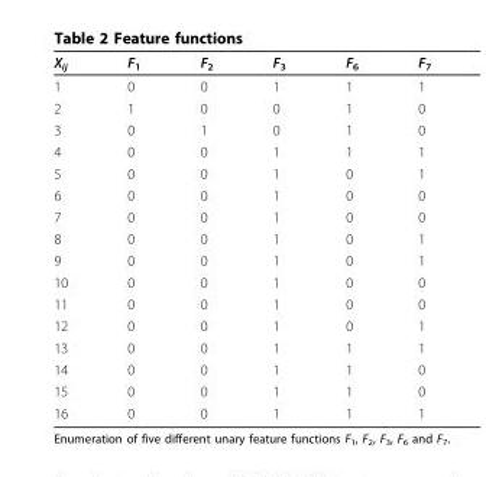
<table><thead><tr><td>X<sub>ij</sub></td><td>F<sub>1</sub></td><td>F<sub>2</sub></td><td>F<sub>3</sub></td><td>F<sub>6</sub></td><td>F<sub>7</sub></td></tr></thead><tbody><tr><td>1</td><td>0</td><td>0</td><td>1</td><td>1</td><td>1</td></tr><tr><td>2</td><td>1</td><td>0</td><td>0</td><td>1</td><td>0</td></tr><tr><td>3</td><td>0</td><td>1</td><td>0</td><td>1</td><td>0</td></tr><tr><td>4</td><td>0</td><td>0</td><td>1</td><td>1</td><td>1</td></tr><tr><td>5</td><td>0</td><td>0</td><td>1</td><td>0</td><td>1</td></tr><tr><td>6</td><td>0</td><td>0</td><td>1</td><td>0</td><td>0</td></tr><tr><td>7</td><td>0</td><td>0</td><td>1</td><td>0</td><td>0</td></tr><tr><td>8</td><td>0</td><td>0</td><td>1</td><td>0</td><td>1</td></tr><tr><td>9</td><td>0</td><td>0</td><td>1</td><td>0</td><td>1</td></tr><tr><td>10</td><td>0</td><td>0</td><td>1</td><td>0</td><td>0</td></tr><tr><td>11</td><td>0</td><td>0</td><td>1</td><td>0</td><td>0</td></tr><tr><td>12</td><td>0</td><td>0</td><td>1</td><td>0</td><td>1</td></tr><tr><td>13</td><td>0</td><td>0</td><td>1</td><td>1</td><td>1</td></tr><tr><td>14</td><td>0</td><td>0</td><td>1</td><td>1</td><td>0</td></tr><tr><td>15</td><td>0</td><td>0</td><td>1</td><td>1</td><td>0</td></tr><tr><td>16</td><td>0</td><td>0</td><td>1</td><td>1</td><td>1</td></tr></tbody></table>